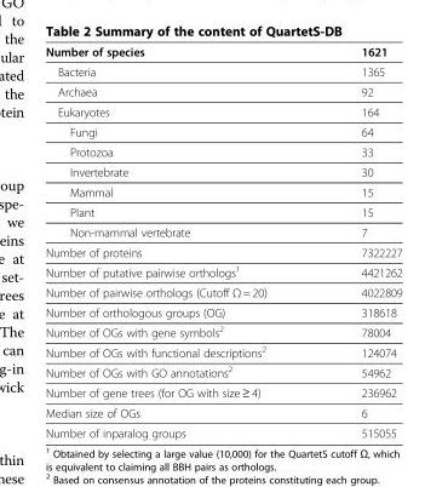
<table><thead><tr><td>Number of species</td><td>1621</td></tr></thead><tbody><tr><td>Bacteria</td><td>1365</td></tr><tr><td>Archaea</td><td>92</td></tr><tr><td>Eukaryotes</td><td>164</td></tr><tr><td>Fungi</td><td>64</td></tr><tr><td>Protozoa</td><td>33</td></tr><tr><td>Invertebrate</td><td>30</td></tr><tr><td>Mammal</td><td>15</td></tr><tr><td>Plant</td><td>15</td></tr><tr><td>Non-mammal vertebrate</td><td>7</td></tr><tr><td>Number of proteins</td><td>7322227</td></tr><tr><td>Number of putative pairwise orthologs<sup>1</sup></td><td>4421262</td></tr><tr><td>Number of pairwise orthologs (Cutoff Ω = 20)</td><td>4022809</td></tr><tr><td>Number of orthologous groups (OG)</td><td>318618</td></tr><tr><td>Number of OGs with gene symbols<sup>2</sup></td><td>78004</td></tr><tr><td>Number of OGs with functional descriptions<sup>2</sup></td><td>124074</td></tr><tr><td>Number of OGs with GO annotations<sup>2</sup></td><td>54962</td></tr><tr><td>Number of gene trees (for OG with size ≥ 4)</td><td>236962</td></tr><tr><td>Median size of OGs</td><td>6</td></tr><tr><td>Number of inparalog groups</td><td>515055</td></tr></tbody></table>